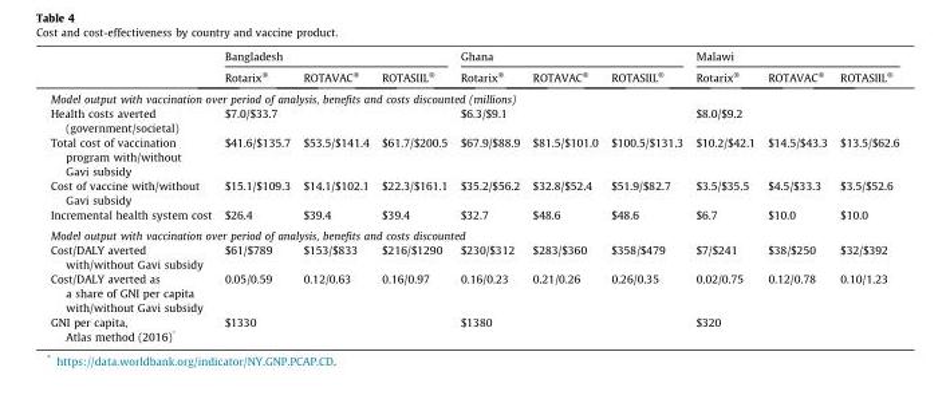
<table><thead><tr><td rowspan="2"></td><td colspan="3">Bangladesh</td><td colspan="3">Ghana</td><td colspan="3">Malawi</td></tr><tr><td>Rotarix®</td><td>ROTAVAC®</td><td>ROTASIIL®</td><td>Rotarix®</td><td>ROTAVAC®</td><td>ROTASIIL®</td><td>Rotarix®</td><td>ROTAVAC®</td><td>ROTASIIL®</td></tr></thead><tbody><tr><td colspan="10">Model output with vaccination over period of analysis, benefits and costs discounted (millions)</td></tr><tr><td>Health costs averted (government/societal)</td><td colspan="3">$7.0/$33.7</td><td colspan="3">$6.3/$9.1</td><td colspan="3">$8.0/$9.2</td></tr><tr><td>Total cost of vaccination program with/without Gavi subsidy</td><td>$41.6/$135.7</td><td>$53.5/$141.4</td><td>$61.7/$200.5</td><td>$67.9/$88.9</td><td>$81.5/$101.0</td><td>$100.5/$131.3</td><td>$10.2/$42.1</td><td>$14.5/$43.3</td><td>$13.5/$62.6</td></tr><tr><td>Cost of vaccine with/without Gavi subsidy</td><td>$15.1/$109.3</td><td>$14.1/$102.1</td><td>$22.3/$161.1</td><td>$35.2/$56.2</td><td>$32.8/$52.4</td><td>$51.9/$82.7</td><td>$3.5/$35.5</td><td>$4.5/$33.3</td><td>$3.5/$52.6</td></tr><tr><td>Incremental health system cost</td><td>$26.4</td><td>$39.4</td><td>$39.4</td><td>$32.7</td><td>$48.6</td><td>$48.6</td><td>$6.7</td><td>$10.0</td><td>$10.0</td></tr><tr><td colspan="10">Model output with vaccination over period of analysis, benefits and costs discounted</td></tr><tr><td>Cost/DALY averted with/without Gavi subsidy</td><td>$61/$789</td><td>$153/$833</td><td>$216/$1290</td><td>$230/$312</td><td>$283/$360</td><td>$358/$479</td><td>$7/$241</td><td>$38/$250</td><td>$32/$392</td></tr><tr><td>Cost/DALY averted as a share of GNI per capita with/without Gavi subsidy</td><td>0.05/0.59</td><td>0.12/0.63</td><td>0.16/0.97</td><td>0.16/0.23</td><td>0.21/0.26</td><td>0.26/0.35</td><td>0.02/0.75</td><td>0.12/0.78</td><td>0.10/1.23</td></tr><tr><td>GNI per capita, Atlas method (2016)*</td><td colspan="3">$1330</td><td colspan="3">$1380</td><td colspan="3">$320</td></tr></tbody></table>